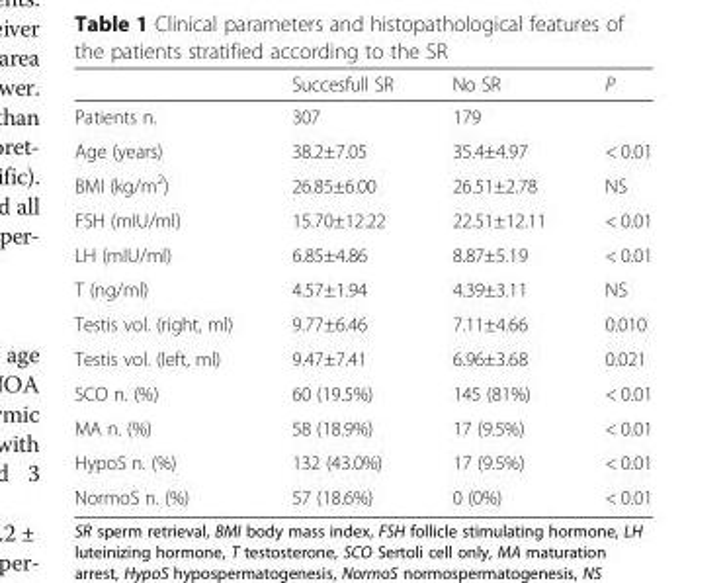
<table><thead><tr><td></td><td>Succesfull SR</td><td>No SR</td><td>P</td></tr></thead><tbody><tr><td>Patients n.</td><td>307</td><td>179</td><td></td></tr><tr><td>Age (years)</td><td>38.2±7.05</td><td>35.4±4.97</td><td>&lt; 0.01</td></tr><tr><td>BMI (kg/m<sup>2</sup>)</td><td>26.85±6.00</td><td>26.51±2.78</td><td>NS</td></tr><tr><td>FSH (mIU/ml)</td><td>15.70±12.22</td><td>22.51±12.11</td><td>&lt; 0.01</td></tr><tr><td>LH (mIU/ml)</td><td>6.85±4.86</td><td>8.87±5.19</td><td>&lt; 0.01</td></tr><tr><td>T (ng/ml)</td><td>4.57±1.94</td><td>4.39±3.11</td><td>NS</td></tr><tr><td>Testis vol. (right, ml)</td><td>9.77±6.46</td><td>7.11±4.66</td><td>0.010</td></tr><tr><td>Testis vol. (left, ml)</td><td>9.47±7.41</td><td>6.96±3.68</td><td>0.021</td></tr><tr><td>SCO n. (%)</td><td>60 (19.5%)</td><td>145 (81%)</td><td>&lt; 0.01</td></tr><tr><td>MA n. (%)</td><td>58 (18.9%)</td><td>17 (9.5%)</td><td>&lt; 0.01</td></tr><tr><td>HypoS n. (%)</td><td>132 (43.0%)</td><td>17 (9.5%)</td><td>&lt; 0.01</td></tr><tr><td>NormoS n. (%)</td><td>57 (18.6%)</td><td>0 (0%)</td><td>&lt; 0.01</td></tr></tbody></table>